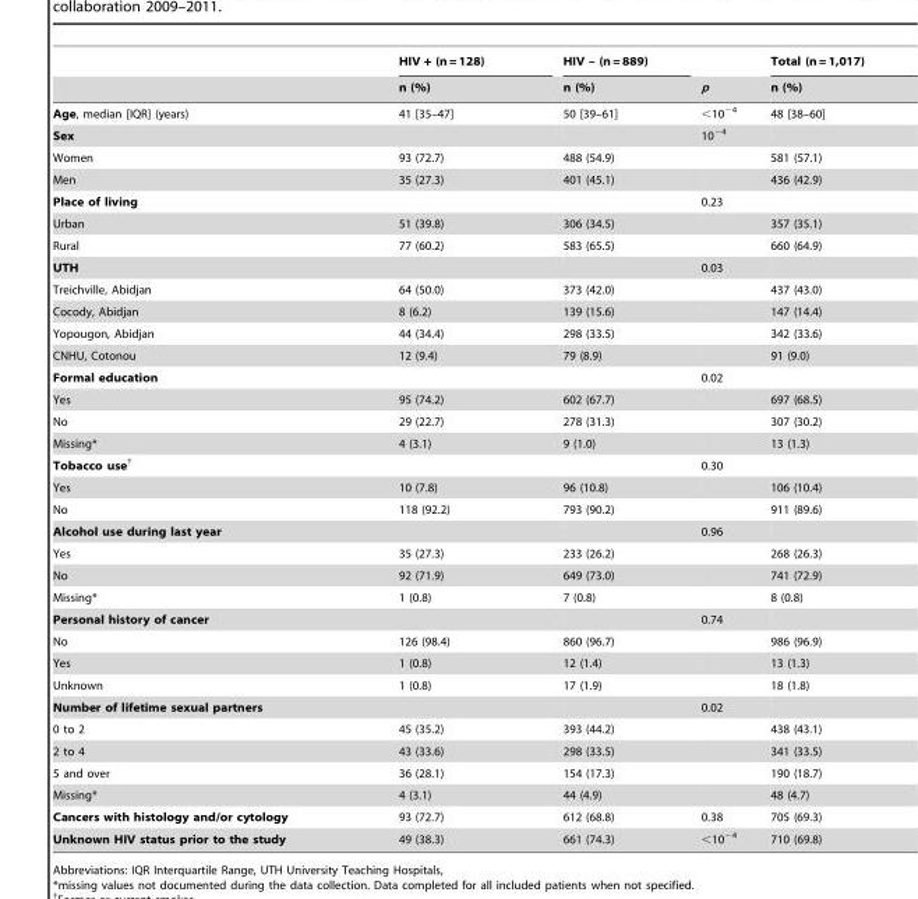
<table><thead><tr><td rowspan="2"></td><td rowspan="2">HIV + (n = 128) n (%)</td><td rowspan="2">HIV – (n = 889) n (%)</td><td rowspan="2">p</td><td rowspan="2">Total (n = 1,017) n (%)</td></tr><tr></tr></thead><tbody><tr><td>Age, median [IQR] (years)</td><td>41 [35–47]</td><td>50 [39–61]</td><td>&lt;10<sup>−4</sup></td><td>48 [38–60]</td></tr><tr><td>Sex</td><td></td><td></td><td>10<sup>−4</sup></td><td></td></tr><tr><td>Women</td><td>93 (72.7)</td><td>488 (54.9)</td><td></td><td>581 (57.1)</td></tr><tr><td>Men</td><td>35 (27.3)</td><td>401 (45.1)</td><td></td><td>436 (42.9)</td></tr><tr><td>Place of living</td><td></td><td></td><td>0.23</td><td></td></tr><tr><td>Urban</td><td>51 (39.8)</td><td>306 (34.5)</td><td></td><td>357 (35.1)</td></tr><tr><td>Rural</td><td>77 (60.2)</td><td>583 (65.5)</td><td></td><td>660 (64.9)</td></tr><tr><td>UTH</td><td></td><td></td><td>0.03</td><td></td></tr><tr><td>Treichville, Abidjan</td><td>64 (50.0)</td><td>373 (42.0)</td><td></td><td>437 (43.0)</td></tr><tr><td>Cocody, Abidjan</td><td>8 (6.2)</td><td>139 (15.6)</td><td></td><td>147 (14.4)</td></tr><tr><td>Yopougon, Abidjan</td><td>44 (34.4)</td><td>298 (33.5)</td><td></td><td>342 (33.6)</td></tr><tr><td>CNHU, Cotonou</td><td>12 (9.4)</td><td>79 (8.9)</td><td></td><td>91 (9.0)</td></tr><tr><td>Formal education</td><td></td><td></td><td>0.02</td><td></td></tr><tr><td>Yes</td><td>95 (74.2)</td><td>602 (67.7)</td><td></td><td>697 (68.5)</td></tr><tr><td>No</td><td>29 (22.7)</td><td>278 (31.3)</td><td></td><td>307 (30.2)</td></tr><tr><td>Missing*</td><td>4 (3.1)</td><td>9 (1.0)</td><td></td><td>13 (1.3)</td></tr><tr><td>Tobacco use†</td><td></td><td></td><td>0.30</td><td></td></tr><tr><td>Yes</td><td>10 (7.8)</td><td>96 (10.8)</td><td></td><td>106 (10.4)</td></tr><tr><td>No</td><td>118 (92.2)</td><td>793 (90.2)</td><td></td><td>911 (89.6)</td></tr><tr><td>Alcohol use during last year</td><td></td><td></td><td>0.96</td><td></td></tr><tr><td>Yes</td><td>35 (27.3)</td><td>233 (26.2)</td><td></td><td>268 (26.3)</td></tr><tr><td>No</td><td>92 (71.9)</td><td>649 (73.0)</td><td></td><td>741 (72.9)</td></tr><tr><td>Missing*</td><td>1 (0.8)</td><td>7 (0.8)</td><td></td><td>8 (0.8)</td></tr><tr><td>Personal history of cancer</td><td></td><td></td><td>0.74</td><td></td></tr><tr><td>No</td><td>126 (98.4)</td><td>860 (96.7)</td><td></td><td>986 (96.9)</td></tr><tr><td>Yes</td><td>1 (0.8)</td><td>12 (1.4)</td><td></td><td>13 (1.3)</td></tr><tr><td>Unknown</td><td>1 (0.8)</td><td>17 (1.9)</td><td></td><td>18 (1.8)</td></tr><tr><td>Number of lifetime sexual partners</td><td></td><td></td><td>0.02</td><td></td></tr><tr><td>0 to 2</td><td>45 (35.2)</td><td>393 (44.2)</td><td></td><td>438 (43.1)</td></tr><tr><td>2 to 4</td><td>43 (33.6)</td><td>298 (33.5)</td><td></td><td>341 (33.5)</td></tr><tr><td>5 and over</td><td>36 (28.1)</td><td>154 (17.3)</td><td></td><td>190 (18.7)</td></tr><tr><td>Missing*</td><td>4 (3.1)</td><td>44 (4.9)</td><td></td><td>48 (4.7)</td></tr><tr><td>Cancers with histology and/or cytology</td><td>93 (72.7)</td><td>612 (68.8)</td><td>0.38</td><td>705 (69.3)</td></tr><tr><td>Unknown HIV status prior to the study</td><td>49 (38.3)</td><td>661 (74.3)</td><td>&lt;10<sup>−4</sup></td><td>710 (69.8)</td></tr></tbody></table>